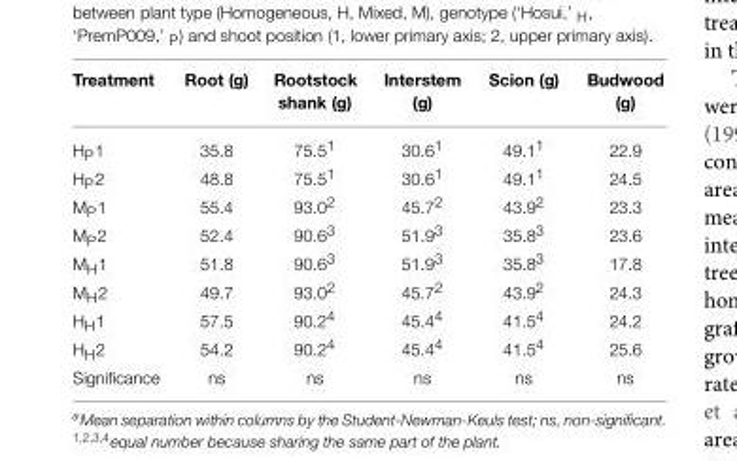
<table><thead><tr><td>Treatment</td><td>Root (g)</td><td>Rootstock shank (g)</td><td>Interstem (g)</td><td>Scion (g)</td><td>Budwood (g)</td></tr></thead><tbody><tr><td>H<sub>P</sub>1</td><td>35.8</td><td>75.5<sup>1</sup></td><td>30.6<sup>1</sup></td><td>49.1<sup>1</sup></td><td>22.9</td></tr><tr><td>H<sub>P</sub>2</td><td>48.8</td><td>75.5<sup>1</sup></td><td>30.6<sup>1</sup></td><td>49.1<sup>1</sup></td><td>24.5</td></tr><tr><td>M<sub>P</sub>1</td><td>55.4</td><td>93.0<sup>2</sup></td><td>45.7<sup>2</sup></td><td>43.9<sup>2</sup></td><td>23.3</td></tr><tr><td>M<sub>P</sub>2</td><td>52.4</td><td>90.6<sup>3</sup></td><td>51.9<sup>3</sup></td><td>35.8<sup>3</sup></td><td>23.6</td></tr><tr><td>M<sub>H</sub>1</td><td>51.8</td><td>90.6<sup>3</sup></td><td>51.9<sup>3</sup></td><td>35.8<sup>3</sup></td><td>17.8</td></tr><tr><td>M<sub>H</sub>2</td><td>49.7</td><td>93.0<sup>2</sup></td><td>45.7<sup>2</sup></td><td>43.9<sup>2</sup></td><td>24.3</td></tr><tr><td>H<sub>H</sub>1</td><td>57.5</td><td>90.2<sup>4</sup></td><td>45.4<sup>4</sup></td><td>41.5<sup>4</sup></td><td>24.2</td></tr><tr><td>H<sub>H</sub>2</td><td>54.2</td><td>90.2<sup>4</sup></td><td>45.4<sup>4</sup></td><td>41.5<sup>4</sup></td><td>25.6</td></tr><tr><td>Significance</td><td>ns</td><td>ns</td><td>ns</td><td>ns</td><td>ns</td></tr></tbody></table>